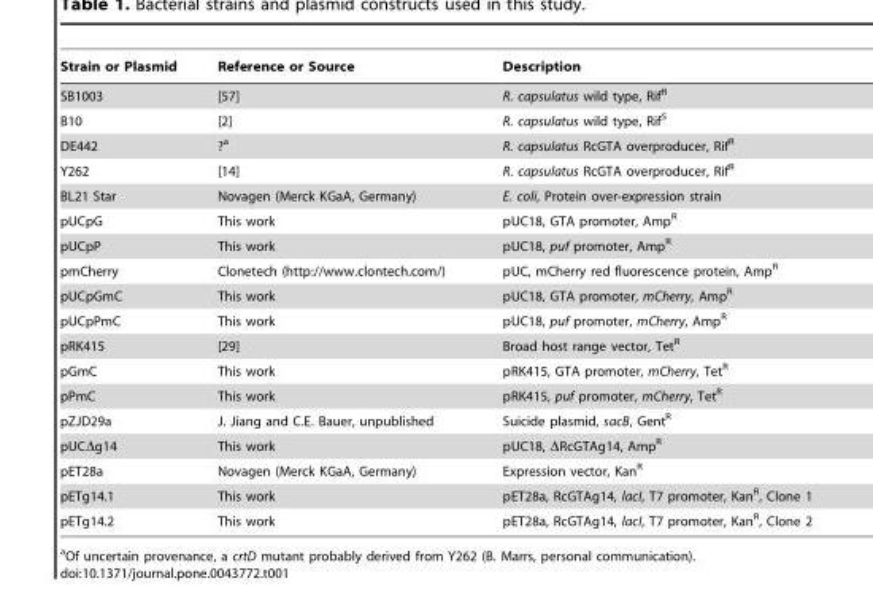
<table><thead><tr><td>Strain or Plasmid</td><td>Reference or Source</td><td>Description</td></tr></thead><tbody><tr><td>SB1003</td><td>[57]</td><td>R. capsulatus wild type, Rif<sup>R</sup></td></tr><tr><td>B10</td><td>[2]</td><td>R. capsulatus wild type, Rif<sup>S</sup></td></tr><tr><td>DE442</td><td>?<sup>a</sup></td><td>R. capsulatus RcGTA overproducer, Rif<sup>R</sup></td></tr><tr><td>Y262</td><td>[14]</td><td>R. capsulatus RcGTA overproducer, Rif<sup>R</sup></td></tr><tr><td>BL21 Star</td><td>Novagen (Merck KGaA, Germany)</td><td>E. coli, Protein over-expression strain</td></tr><tr><td>pUCpG</td><td>This work</td><td>pUC18, GTA promoter, Amp<sup>R</sup></td></tr><tr><td>pUCpP</td><td>This work</td><td>pUC18, puf promoter, Amp<sup>R</sup></td></tr><tr><td>pmCherry</td><td>Clonetech (http://www.clontech.com/)</td><td>pUC, mCherry red fluorescence protein, Amp<sup>R</sup></td></tr><tr><td>pUCpGmC</td><td>This work</td><td>pUC18, GTA promoter, mCherry, Amp<sup>R</sup></td></tr><tr><td>pUCpPmC</td><td>This work</td><td>pUC18, puf promoter, mCherry, Amp<sup>R</sup></td></tr><tr><td>pRK415</td><td>[29]</td><td>Broad host range vector, Tet<sup>R</sup></td></tr><tr><td>pGmC</td><td>This work</td><td>pRK415, GTA promoter, mCherry, Tet<sup>R</sup></td></tr><tr><td>pPmC</td><td>This work</td><td>pRK415, puf promoter, mCherry, Tet<sup>R</sup></td></tr><tr><td>pZJD29a</td><td>J. Jiang and C.E. Bauer, unpublished</td><td>Suicide plasmid, sacB, Gent<sup>R</sup></td></tr><tr><td>pUCΔg14</td><td>This work</td><td>pUC18, ΔRcGTAg14, Amp<sup>R</sup></td></tr><tr><td>pET28a</td><td>Novagen (Merck KGaA, Germany)</td><td>Expression vector, Kan<sup>R</sup></td></tr><tr><td>pETg14.1</td><td>This work</td><td>pET28a, RcGTAg14, lacI, T7 promoter, Kan<sup>R</sup>, Clone 1</td></tr><tr><td>pETg14.2</td><td>This work</td><td>pET28a, RcGTAg14, lacI, T7 promoter, Kan<sup>R</sup>, Clone 2</td></tr></tbody></table>